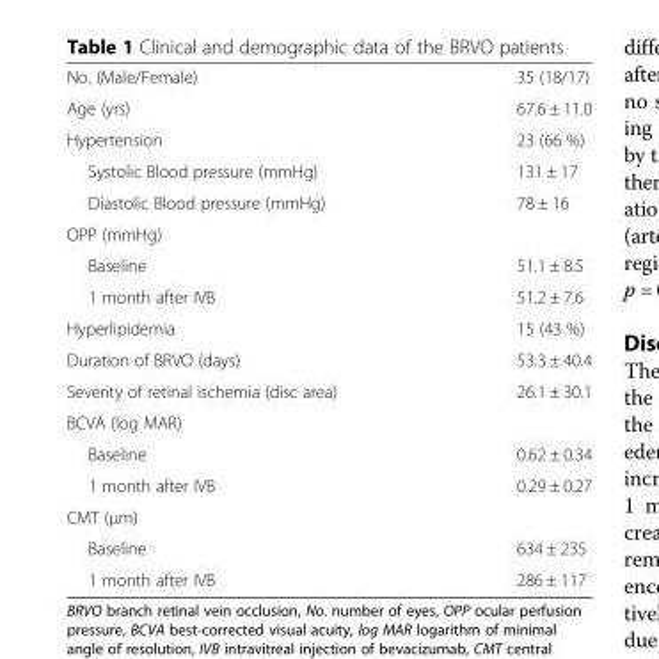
<table><tbody><tr><td>No. (Male/Female)</td><td>35 (18/17)</td></tr><tr><td>Age (yrs)</td><td>67.6 ± 11.0</td></tr><tr><td>Hypertension</td><td>23 (66 %)</td></tr><tr><td>Systolic Blood pressure (mmHg)</td><td>131 ± 17</td></tr><tr><td>Diastolic Blood pressure (mmHg)</td><td>78 ± 16</td></tr><tr><td colspan="2">OPP (mmHg)</td></tr><tr><td>Baseline</td><td>51.1 ± 8.5</td></tr><tr><td>1 month after IVB</td><td>51.2 ± 7.6</td></tr><tr><td>Hyperlipidemia</td><td>15 (43 %)</td></tr><tr><td>Duration of BRVO (days)</td><td>53.3 ± 40.4</td></tr><tr><td>Severity of retinal ischemia (disc area)</td><td>26.1 ± 30.1</td></tr><tr><td colspan="2">BCVA (log MAR)</td></tr><tr><td>Baseline</td><td>0.62 ± 0.34</td></tr><tr><td>1 month after IVB</td><td>0.29 ± 0.27</td></tr><tr><td colspan="2">CMT (μm)</td></tr><tr><td>Baseline</td><td>634 ± 235</td></tr><tr><td>1 month after IVB</td><td>286 ± 117</td></tr></tbody></table>